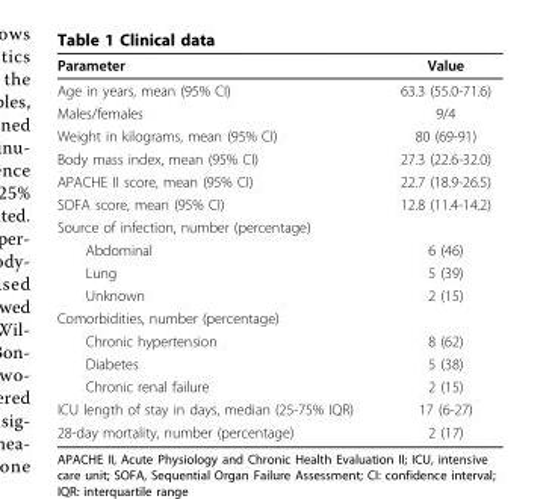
<table><thead><tr><td>Parameter</td><td>Value</td></tr></thead><tbody><tr><td>Age in years, mean (95% CI)</td><td>63.3 (55.0-71.6)</td></tr><tr><td>Males/females</td><td>9/4</td></tr><tr><td>Weight in kilograms, mean (95% CI)</td><td>80 (69-91)</td></tr><tr><td>Body mass index, mean (95% CI)</td><td>27.3 (22.6-32.0)</td></tr><tr><td>APACHE II score, mean (95% CI)</td><td>22.7 (18.9-26.5)</td></tr><tr><td>SOFA score, mean (95% CI)</td><td>12.8 (11.4-14.2)</td></tr><tr><td colspan="2">Source of infection, number (percentage)</td></tr><tr><td>Abdominal</td><td>6 (46)</td></tr><tr><td>Lung</td><td>5 (39)</td></tr><tr><td>Unknown</td><td>2 (15)</td></tr><tr><td colspan="2">Comorbidities, number (percentage)</td></tr><tr><td>Chronic hypertension</td><td>8 (62)</td></tr><tr><td>Diabetes</td><td>5 (38)</td></tr><tr><td>Chronic renal failure</td><td>2 (15)</td></tr><tr><td>ICU length of stay in days, median (25-75% IQR)</td><td>17 (6-27)</td></tr><tr><td>28-day mortality, number (percentage)</td><td>2 (17)</td></tr></tbody></table>